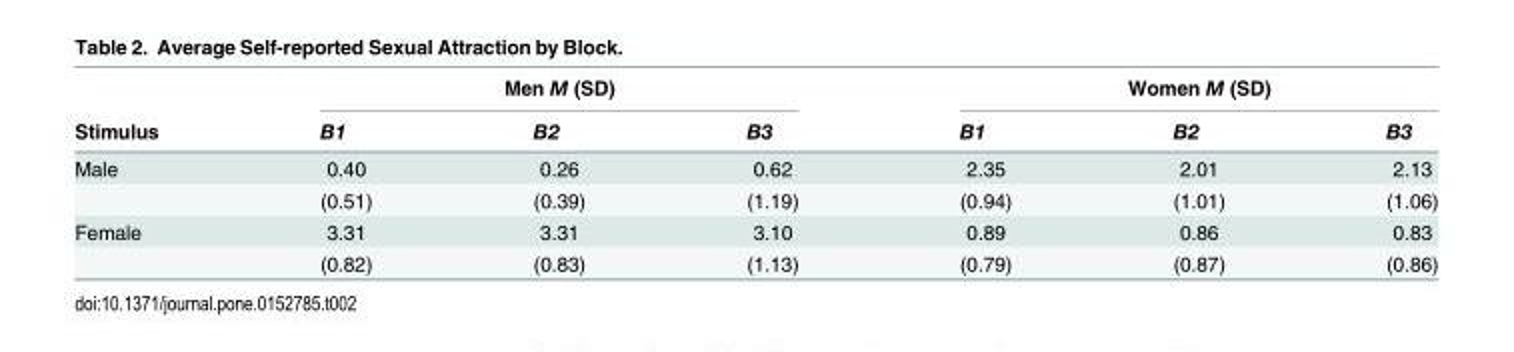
<table><thead><tr><td rowspan="2">Stimulus</td><td colspan="3">Men M (SD)</td><td colspan="3">Women M (SD)</td></tr><tr><td>B1</td><td>B2</td><td>B3</td><td>B1</td><td>B2</td><td>B3</td></tr></thead><tbody><tr><td rowspan="2">Male</td><td>0.40</td><td>0.26</td><td>0.62</td><td>2.35</td><td>2.01</td><td>2.13</td></tr><tr><td>(0.51)</td><td>(0.39)</td><td>(1.19)</td><td>(0.94)</td><td>(1.01)</td><td>(1.06)</td></tr><tr><td rowspan="2">Female</td><td>3.31</td><td>3.31</td><td>3.10</td><td>0.89</td><td>0.86</td><td>0.83</td></tr><tr><td>(0.82)</td><td>(0.83)</td><td>(1.13)</td><td>(0.79)</td><td>(0.87)</td><td>(0.86)</td></tr></tbody></table>